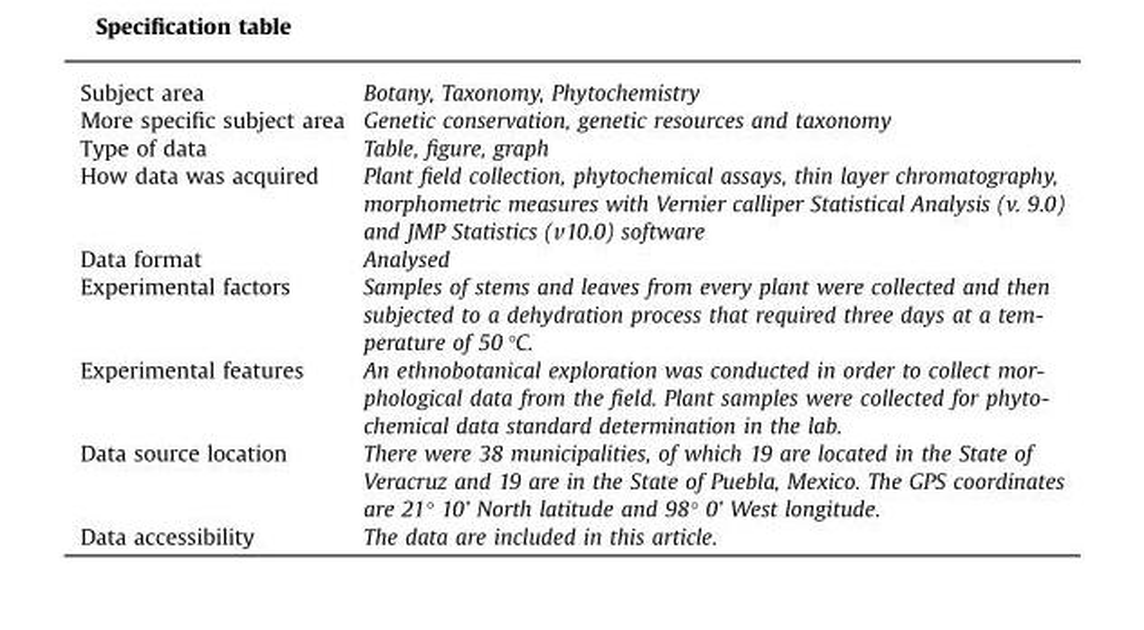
<table><tbody><tr><td>Subject area</td><td>Botany, Taxonomy, Phytochemistry</td></tr><tr><td>More specific subject area</td><td>Genetic conservation, genetic resources and taxonomy</td></tr><tr><td>Type of data</td><td>Table, figure, graph</td></tr><tr><td>How data was acquired</td><td>Plant field collection, phytochemical assays, thin layer chromatography, morphometric measures with Vernier calliper Statistical Analysis (v. 9.0) and JMP Statistics (v10.0) software</td></tr><tr><td>Data format</td><td>Analysed</td></tr><tr><td>Experimental factors</td><td>Samples of stems and leaves from every plant were collected and then subjected to a dehydration process that required three days at a tem- perature of 50 °C.</td></tr><tr><td>Experimental features</td><td>An ethnobotanical exploration was conducted in order to collect mor- phological data from the field. Plant samples were collected for phyto- chemical data standard determination in the lab.</td></tr><tr><td>Data source location</td><td>There were 38 municipalities, of which 19 are located in the State of Veracruz and 19 are in the State of Puebla, Mexico. The GPS coordinates are 21° 10’ North latitude and 98° 0’ West longitude.</td></tr><tr><td>Data accessibility</td><td>The data are included in this article.</td></tr></tbody></table>